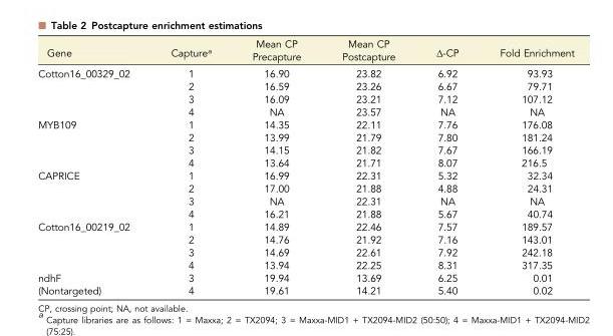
<table><thead><tr><td>Gene</td><td>Capture<sup>a</sup></td><td>Mean CP Precapture</td><td>Mean CP Postcapture</td><td>Δ-CP</td><td>Fold Enrichment</td></tr></thead><tbody><tr><td rowspan="4">Cotton16_00329_02</td><td>1</td><td>16.90</td><td>23.82</td><td>6.92</td><td>93.93</td></tr><tr><td>2</td><td>16.59</td><td>23.26</td><td>6.67</td><td>79.71</td></tr><tr><td>3</td><td>16.09</td><td>23.21</td><td>7.12</td><td>107.12</td></tr><tr><td>4</td><td>NA</td><td>23.57</td><td>NA</td><td>NA</td></tr><tr><td rowspan="4">MYB109</td><td>1</td><td>14.35</td><td>22.11</td><td>7.76</td><td>176.08</td></tr><tr><td>2</td><td>13.99</td><td>21.79</td><td>7.80</td><td>181.24</td></tr><tr><td>3</td><td>14.15</td><td>21.82</td><td>7.67</td><td>166.19</td></tr><tr><td>4</td><td>13.64</td><td>21.71</td><td>8.07</td><td>216.5</td></tr><tr><td rowspan="4">CAPRICE</td><td>1</td><td>16.99</td><td>22.31</td><td>5.32</td><td>32.34</td></tr><tr><td>2</td><td>17.00</td><td>21.88</td><td>4.88</td><td>24.31</td></tr><tr><td>3</td><td>NA</td><td>22.31</td><td>NA</td><td>NA</td></tr><tr><td>4</td><td>16.21</td><td>21.88</td><td>5.67</td><td>40.74</td></tr><tr><td rowspan="4">Cotton16_00219_02</td><td>1</td><td>14.89</td><td>22.46</td><td>7.57</td><td>189.57</td></tr><tr><td>2</td><td>14.76</td><td>21.92</td><td>7.16</td><td>143.01</td></tr><tr><td>3</td><td>14.69</td><td>22.61</td><td>7.92</td><td>242.18</td></tr><tr><td>4</td><td>13.94</td><td>22.25</td><td>8.31</td><td>317.35</td></tr><tr><td>ndhF</td><td>3</td><td>19.94</td><td>13.69</td><td>6.25</td><td>0.01</td></tr><tr><td>(Nontargeted)</td><td>4</td><td>19.61</td><td>14.21</td><td>5.40</td><td>0.02</td></tr></tbody></table>